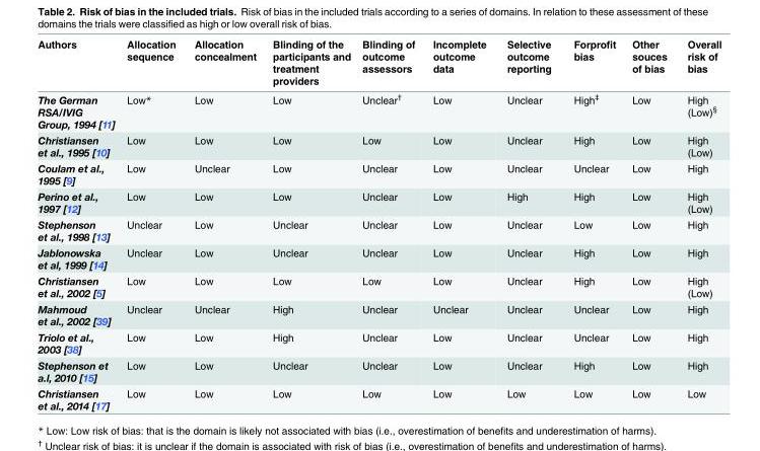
<table><thead><tr><td>Authors</td><td>Allocation sequence</td><td>Allocation concealment</td><td>Blinding of the participants and treatment providers</td><td>Blinding of outcome assessors</td><td>Incomplete outcome data</td><td>Selective outcome reporting</td><td>Forprofit bias</td><td>Other souces of bias</td><td>Overall risk of bias</td></tr></thead><tbody><tr><td>The German RSA/IVIG Group, 1994 [11]</td><td>Low*</td><td>Low</td><td>Low</td><td>Unclear<sup>†</sup></td><td>Low</td><td>Unclear</td><td>High<sup>‡</sup></td><td>Low</td><td>High (Low)<sup>§</sup></td></tr><tr><td>Christiansen et al., 1995 [10]</td><td>Low</td><td>Low</td><td>Low</td><td>Low</td><td>Low</td><td>Unclear</td><td>High</td><td>Low</td><td>High (Low)</td></tr><tr><td>Coulam et al., 1995 [9]</td><td>Low</td><td>Unclear</td><td>Low</td><td>Unclear</td><td>Low</td><td>Unclear</td><td>Unclear</td><td>Low</td><td>High</td></tr><tr><td>Perino et al., 1997 [12]</td><td>Low</td><td>Low</td><td>Low</td><td>Unclear</td><td>Low</td><td>High</td><td>High</td><td>Low</td><td>High (Low)</td></tr><tr><td>Stephenson et al., 1998 [13]</td><td>Unclear</td><td>Low</td><td>Unclear</td><td>Unclear</td><td>Low</td><td>Unclear</td><td>Low</td><td>Low</td><td>High</td></tr><tr><td>Jablonowska et al, 1999 [14]</td><td>Unclear</td><td>Low</td><td>Unclear</td><td>Unclear</td><td>Low</td><td>Unclear</td><td>High</td><td>Low</td><td>High</td></tr><tr><td>Christiansen et al., 2002 [5]</td><td>Low</td><td>Low</td><td>Low</td><td>Low</td><td>Low</td><td>Unclear</td><td>High</td><td>Low</td><td>High (Low)</td></tr><tr><td>Mahmoud et al., 2002 [39]</td><td>Unclear</td><td>Unclear</td><td>High</td><td>Unclear</td><td>Unclear</td><td>Unclear</td><td>Unclear</td><td>Low</td><td>High</td></tr><tr><td>Triolo et al., 2003 [38]</td><td>Low</td><td>Low</td><td>High</td><td>Unclear</td><td>Low</td><td>Unclear</td><td>Unclear</td><td>Low</td><td>High</td></tr><tr><td>Stephenson et a.l, 2010 [15]</td><td>Low</td><td>Low</td><td>Unclear</td><td>Unclear</td><td>Low</td><td>Unclear</td><td>High</td><td>Low</td><td>High</td></tr><tr><td>Christiansen et al., 2014 [17]</td><td>Low</td><td>Low</td><td>Low</td><td>Low</td><td>Low</td><td>Low</td><td>Low</td><td>Low</td><td>Low</td></tr></tbody></table>